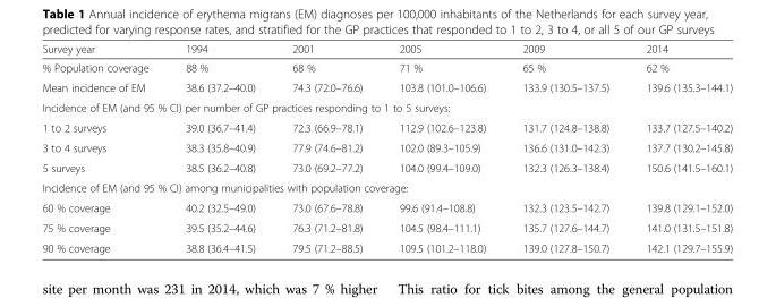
<table><thead><tr><td>Survey year</td><td>1994</td><td>2001</td><td>2005</td><td>2009</td><td>2014</td></tr></thead><tbody><tr><td>% Population coverage</td><td>88 %</td><td>68 %</td><td>71 %</td><td>65 %</td><td>62 %</td></tr><tr><td>Mean incidence of EM</td><td>38.6 (37.2–40.0)</td><td>74.3 (72.0–76.6)</td><td>103.8 (101.0–106.6)</td><td>133.9 (130.5–137.5)</td><td>139.6 (135.3–144.1)</td></tr><tr><td colspan="6">Incidence of EM (and 95 % CI) per number of GP practices responding to 1 to 5 surveys:</td></tr><tr><td>1 to 2 surveys</td><td>39.0 (36.7–41.4)</td><td>72.3 (66.9–78.1)</td><td>112.9 (102.6–123.8)</td><td>131.7 (124.8–138.8)</td><td>133.7 (127.5–140.2)</td></tr><tr><td>3 to 4 surveys</td><td>38.3 (35.8–40.9)</td><td>77.9 (74.6–81.2)</td><td>102.0 (89.3–105.9)</td><td>136.6 (131.0–142.3)</td><td>137.7 (130.2–145.8)</td></tr><tr><td>5 surveys</td><td>38.5 (36.2–40.8)</td><td>73.0 (69.2–77.2)</td><td>104.0 (99.4–109.0)</td><td>132.3 (126.3–138.4)</td><td>150.6 (141.5–160.1)</td></tr><tr><td colspan="6">Incidence of EM (and 95 % CI) among municipalities with population coverage:</td></tr><tr><td>60 % coverage</td><td>40.2 (32.5–49.0)</td><td>73.0 (67.6–78.8)</td><td>99.6 (91.4–108.8)</td><td>132.3 (123.5–142.7)</td><td>139.8 (129.1–152.0)</td></tr><tr><td>75 % coverage</td><td>39.5 (35.2–44.6)</td><td>76.3 (71.2–81.8)</td><td>104.5 (98.4–111.1)</td><td>135.7 (127.6–144.7)</td><td>141.0 (131.5–151.8)</td></tr><tr><td>90 % coverage</td><td>38.8 (36.4–41.5)</td><td>79.5 (71.2–88.5)</td><td>109.5 (101.2–118.0)</td><td>139.0 (127.8–150.7)</td><td>142.1 (129.7–155.9)</td></tr></tbody></table>